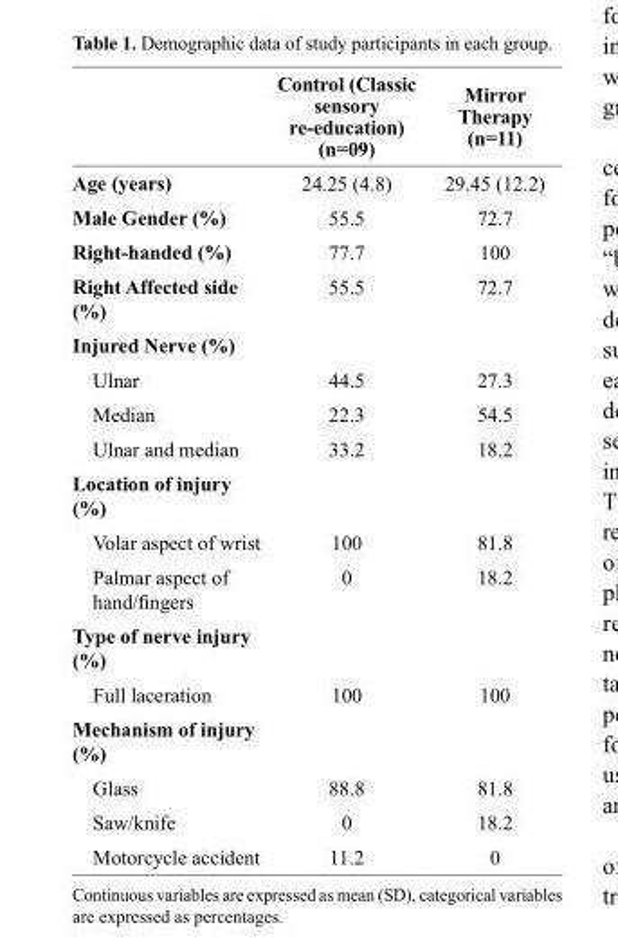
<table><thead><tr><td></td><td>Control (Classic sensory re-education) (n=09)</td><td>Mirror Therapy (n=11)</td></tr></thead><tbody><tr><td>Age (years)</td><td>24.25 (4.8)</td><td>29.45 (12.2)</td></tr><tr><td>Male Gender (%)</td><td>55.5</td><td>72.7</td></tr><tr><td>Right-handed (%)</td><td>77.7</td><td>100</td></tr><tr><td>Right Affected side (%)</td><td>55.5</td><td>72.7</td></tr><tr><td colspan="3">Injured Nerve (%)</td></tr><tr><td>Ulnar</td><td>44.5</td><td>27.3</td></tr><tr><td>Median</td><td>22.3</td><td>54.5</td></tr><tr><td>Ulnar and median</td><td>33.2</td><td>18.2</td></tr><tr><td colspan="3">Location of injury (%)</td></tr><tr><td>Volar aspect of wrist</td><td>100</td><td>81.8</td></tr><tr><td>Palmar aspect of hand/fingers</td><td>0</td><td>18.2</td></tr><tr><td colspan="3">Type of nerve injury (%)</td></tr><tr><td>Full laceration</td><td>100</td><td>100</td></tr><tr><td colspan="3">Mechanism of injury (%)</td></tr><tr><td>Glass</td><td>88.8</td><td>81.8</td></tr><tr><td>Saw/knife</td><td>0</td><td>18.2</td></tr><tr><td>Motorcycle accident</td><td>11.2</td><td>0</td></tr></tbody></table>